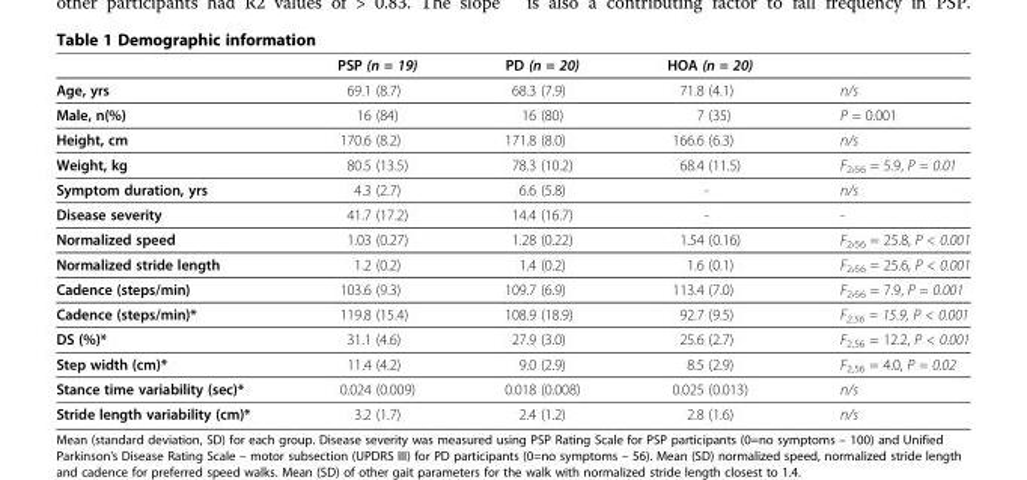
<table><thead><tr><td></td><td>PSP (n = 19)</td><td>PD (n = 20)</td><td>HOA (n = 20)</td><td></td></tr></thead><tbody><tr><td>Age, yrs</td><td>69.1 (8.7)</td><td>68.3 (7.9)</td><td>71.8 (4.1)</td><td>n/s</td></tr><tr><td>Male, n(%)</td><td>16 (84)</td><td>16 (80)</td><td>7 (35)</td><td>P = 0.001</td></tr><tr><td>Height, cm</td><td>170.6 (8.2)</td><td>171.8 (8.0)</td><td>166.6 (6.3)</td><td>n/s</td></tr><tr><td>Weight, kg</td><td>80.5 (13.5)</td><td>78.3 (10.2)</td><td>68.4 (11.5)</td><td>F<sub>2</sub>,<sub>56</sub> = 5.9, P = 0.01</td></tr><tr><td>Symptom duration, yrs</td><td>4.3 (2.7)</td><td>6.6 (5.8)</td><td>-</td><td>n/s</td></tr><tr><td>Disease severity</td><td>41.7 (17.2)</td><td>14.4 (16.7)</td><td>-</td><td>-</td></tr><tr><td>Normalized speed</td><td>1.03 (0.27)</td><td>1.28 (0.22)</td><td>1.54 (0.16)</td><td>F<sub>2</sub>,<sub>56</sub> = 25.8, P &lt; 0.001</td></tr><tr><td>Normalized stride length</td><td>1.2 (0.2)</td><td>1.4 (0.2)</td><td>1.6 (0.1)</td><td>F<sub>2</sub>,<sub>56</sub> = 25.6, P &lt; 0.001</td></tr><tr><td>Cadence (steps/min)</td><td>103.6 (9.3)</td><td>109.7 (6.9)</td><td>113.4 (7.0)</td><td>F<sub>2</sub>,<sub>56</sub> = 7.9, P = 0.001</td></tr><tr><td>Cadence (steps/min)*</td><td>119.8 (15.4)</td><td>108.9 (18.9)</td><td>92.7 (9.5)</td><td>F<sub>2,56</sub> = 15.9, P &lt; 0.001</td></tr><tr><td>DS (%)*</td><td>31.1 (4.6)</td><td>27.9 (3.0)</td><td>25.6 (2.7)</td><td>F<sub>2,56</sub> = 12.2, P &lt; 0.001</td></tr><tr><td>Step width (cm)*</td><td>11.4 (4.2)</td><td>9.0 (2.9)</td><td>8.5 (2.9)</td><td>F<sub>2,56</sub> = 4.0, P = 0.02</td></tr><tr><td>Stance time variability (sec)*</td><td>0.024 (0.009)</td><td>0.018 (0.008)</td><td>0.025 (0.013)</td><td>n/s</td></tr><tr><td>Stride length variability (cm)*</td><td>3.2 (1.7)</td><td>2.4 (1.2)</td><td>2.8 (1.6)</td><td>n/s</td></tr></tbody></table>